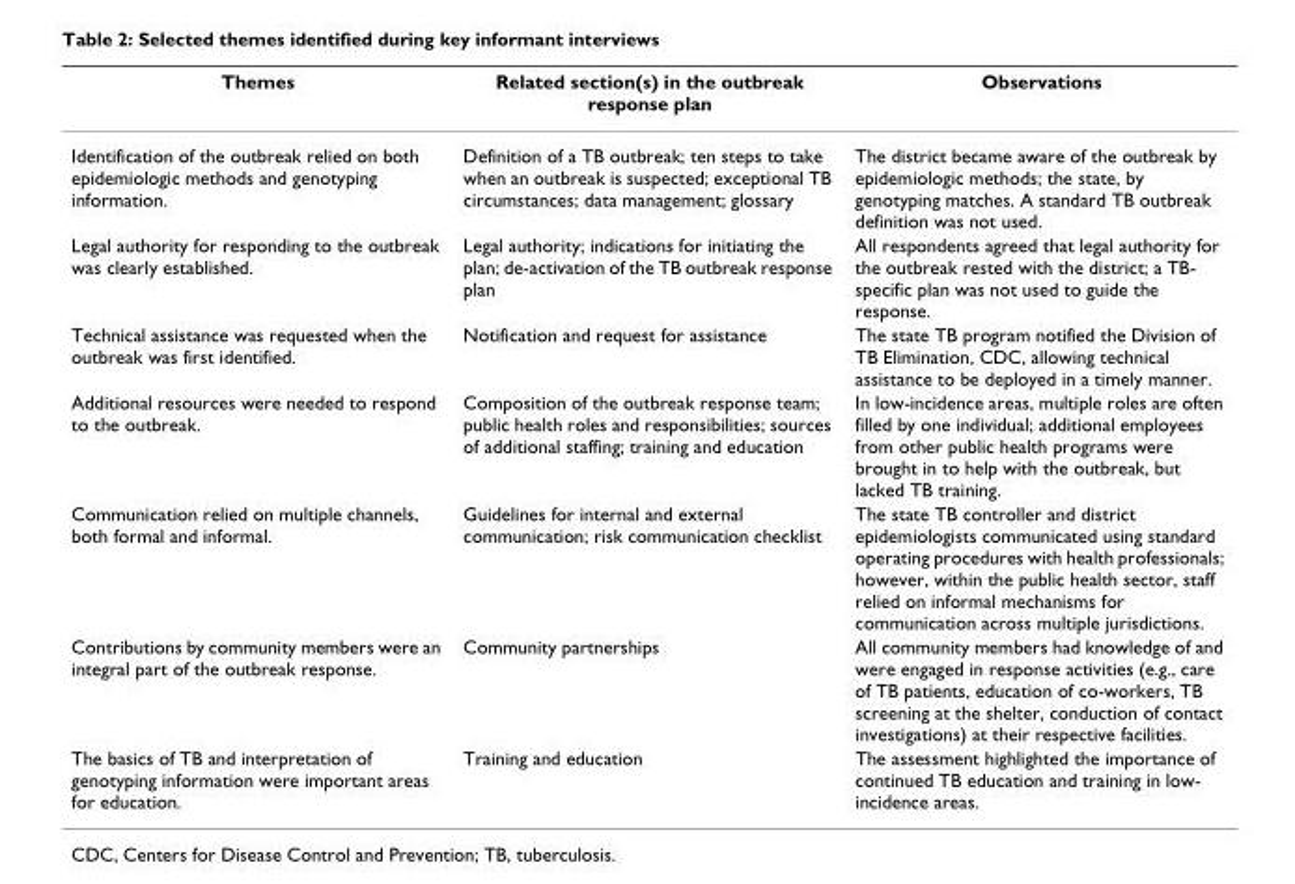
<table><thead><tr><td>Themes</td><td>Related section(s) in the outbreak response plan</td><td>Observations</td></tr></thead><tbody><tr><td>Identification of the outbreak relied on both epidemiologic methods and genotyping information.</td><td>Definition of a TB outbreak; ten steps to take when an outbreak is suspected; exceptional TB circumstances; data management; glossary</td><td>The district became aware of the outbreak by epidemiologic methods; the state, by genotyping matches. A standard TB outbreak definition was not used.</td></tr><tr><td>Legal authority for responding to the outbreak was clearly established.</td><td>Legal authority; indications for initiating the plan; de-activation of the TB outbreak response plan</td><td>All respondents agreed that legal authority for the outbreak rested with the district; a TB- specific plan was not used to guide the response.</td></tr><tr><td>Technical assistance was requested when the outbreak was first identified.</td><td>Notification and request for assistance</td><td>The state TB program notified the Division of TB Elimination, CDC, allowing technical assistance to be deployed in a timely manner.</td></tr><tr><td>Additional resources were needed to respond to the outbreak.</td><td>Composition of the outbreak response team; public health roles and responsibilities; sources of additional staffing; training and education</td><td>In low-incidence areas, multiple roles are often filled by one individual; additional employees from other public health programs were brought in to help with the outbreak, but lacked TB training.</td></tr><tr><td>Communication relied on multiple channels, both formal and informal.</td><td>Guidelines for internal and external communication; risk communication checklist</td><td>The state TB controller and district epidemiologists communicated using standard operating procedures with health professionals; however, within the public health sector, staff relied on informal mechanisms for communication across multiple jurisdictions.</td></tr><tr><td>Contributions by community members were an integral part of the outbreak response.</td><td>Community partnerships</td><td>All community members had knowledge of and were engaged in response activities (e.g., care of TB patients, education of co-workers, TB screening at the shelter, conduction of contact investigations) at their respective facilities.</td></tr><tr><td>The basics of TB and interpretation of genotyping information were important areas for education.</td><td>Training and education</td><td>The assessment highlighted the importance of continued TB education and training in low- incidence areas.</td></tr></tbody></table>